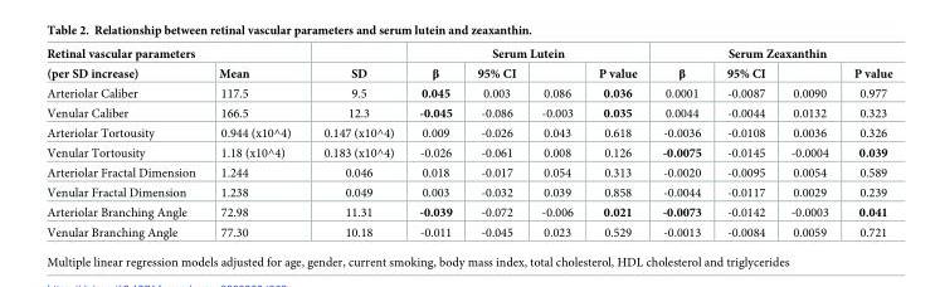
<table><thead><tr><td colspan="2">Retinal vascular parameters</td><td rowspan="2">SD</td><td colspan="4">Serum Lutein</td><td colspan="4">Serum Zeaxanthin</td></tr><tr><td>(per SD increase)</td><td>Mean</td><td>β</td><td>95% CI</td><td></td><td>P value</td><td>β</td><td>95% CI</td><td></td><td>P value</td></tr></thead><tbody><tr><td>Arteriolar Caliber</td><td>117.5</td><td>9.5</td><td>0.045</td><td>0.003</td><td>0.086</td><td>0.036</td><td>0.0001</td><td>-0.0087</td><td>0.0090</td><td>0.977</td></tr><tr><td>Venular Caliber</td><td>166.5</td><td>12.3</td><td>-0.045</td><td>-0.086</td><td>-0.003</td><td>0.035</td><td>0.0044</td><td>-0.0044</td><td>0.0132</td><td>0.323</td></tr><tr><td>Arteriolar Tortousity</td><td>0.944 (x10^4)</td><td>0.147 (x10^4)</td><td>0.009</td><td>-0.026</td><td>0.043</td><td>0.618</td><td>-0.0036</td><td>-0.0108</td><td>0.0036</td><td>0.326</td></tr><tr><td>Venular Tortousity</td><td>1.18 (x10^4)</td><td>0.183 (x10^4)</td><td>-0.026</td><td>-0.061</td><td>0.008</td><td>0.126</td><td>-0.0075</td><td>-0.0145</td><td>-0.0004</td><td>0.039</td></tr><tr><td>Arteriolar Fractal Dimension</td><td>1.244</td><td>0.046</td><td>0.018</td><td>-0.017</td><td>0.054</td><td>0.313</td><td>-0.0020</td><td>-0.0095</td><td>0.0054</td><td>0.589</td></tr><tr><td>Venular Fractal Dimension</td><td>1.238</td><td>0.049</td><td>0.003</td><td>-0.032</td><td>0.039</td><td>0.858</td><td>-0.0044</td><td>-0.0117</td><td>0.0029</td><td>0.239</td></tr><tr><td>Arteriolar Branching Angle</td><td>72.98</td><td>11.31</td><td>-0.039</td><td>-0.072</td><td>-0.006</td><td>0.021</td><td>-0.0073</td><td>-0.0142</td><td>-0.0003</td><td>0.041</td></tr><tr><td>Venular Branching Angle</td><td>77.30</td><td>10.18</td><td>-0.011</td><td>-0.045</td><td>0.023</td><td>0.529</td><td>-0.0013</td><td>-0.0084</td><td>0.0059</td><td>0.721</td></tr></tbody></table>